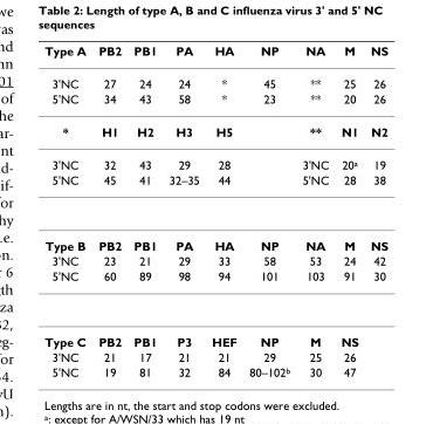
<table><thead><tr><td>Type A</td><td>PB2</td><td>PB1</td><td>PA</td><td>HA</td><td>NP</td><td>NA</td><td>M</td><td>NS</td></tr></thead><tbody><tr><td>3&#x27;NC</td><td>27</td><td>24</td><td>24</td><td>*</td><td>45</td><td>**</td><td>25</td><td>26</td></tr><tr><td>5&#x27;NC</td><td>34</td><td>43</td><td>58</td><td>*</td><td>23</td><td>**</td><td>20</td><td>26</td></tr><tr><td>*</td><td>H1</td><td>H2</td><td>H3</td><td>H5</td><td></td><td>**</td><td>N1</td><td>N2</td></tr><tr><td>3&#x27;NC</td><td>32</td><td>43</td><td>29</td><td>28</td><td></td><td>3&#x27;NC</td><td>20a</td><td>19</td></tr><tr><td>5&#x27;NC</td><td>45</td><td>41</td><td>32–35</td><td>44</td><td></td><td>5&#x27;NC</td><td>28</td><td>38</td></tr><tr><td>Type B</td><td>PB2</td><td>PB1</td><td>PA</td><td>HA</td><td>NP</td><td>NA</td><td>M</td><td>NS</td></tr><tr><td>3&#x27;NC</td><td>23</td><td>21</td><td>29</td><td>33</td><td>58</td><td>53</td><td>24</td><td>42</td></tr><tr><td>5&#x27;NC</td><td>60</td><td>89</td><td>98</td><td>94</td><td>101</td><td>103</td><td>91</td><td>30</td></tr><tr><td>Type C</td><td>PB2</td><td>PB1</td><td>P3</td><td>HEF</td><td>NP</td><td>M</td><td>NS</td><td></td></tr><tr><td>3&#x27;NC</td><td>21</td><td>17</td><td>21</td><td>21</td><td>29</td><td>25</td><td>26</td><td></td></tr><tr><td>5&#x27;NC</td><td>19</td><td>81</td><td>32</td><td>84</td><td>80–102b</td><td>30</td><td>47</td><td></td></tr></tbody></table>